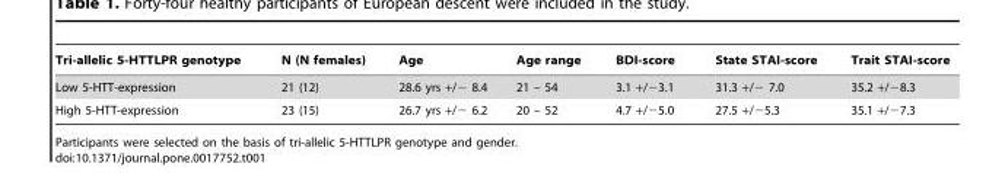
<table><thead><tr><td>Tri-allelic 5-HTTLPR genotype</td><td>N (N females)</td><td>Age</td><td>Age range</td><td>BDI-score</td><td>State STAI-score</td><td>Trait STAI-score</td></tr></thead><tbody><tr><td>Low 5-HTT-expression</td><td>21 (12)</td><td>28.6 yrs +/− 8.4</td><td>21 – 54</td><td>3.1 +/−3.1</td><td>31.3 +/− 7.0</td><td>35.2 +/−8.3</td></tr><tr><td>High 5-HTT-expression</td><td>23 (15)</td><td>26.7 yrs +/− 6.2</td><td>20 – 52</td><td>4.7 +/−5.0</td><td>27.5 +/−5.3</td><td>35.1 +/−7.3</td></tr></tbody></table>